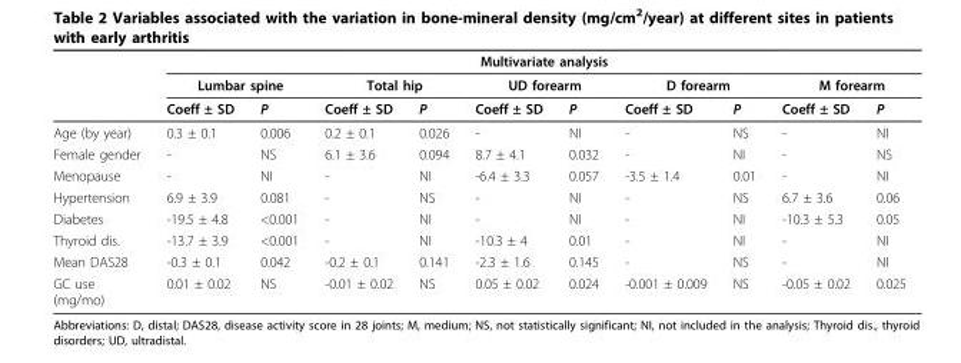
<table><thead><tr><td rowspan="3"></td><td colspan="10">Multivariate analysis</td></tr><tr><td colspan="2">Lumbar spine</td><td colspan="2">Total hip</td><td colspan="2">UD forearm</td><td colspan="2">D forearm</td><td colspan="2">M forearm</td></tr><tr><td>Coeff ± SD</td><td>P</td><td>Coeff ± SD</td><td>P</td><td>Coeff ± SD</td><td>P</td><td>Coeff ± SD</td><td>P</td><td>Coeff ± SD</td><td>P</td></tr></thead><tbody><tr><td>Age (by year)</td><td>0.3 ± 0.1</td><td>0.006</td><td>0.2 ± 0.1</td><td>0.026</td><td>-</td><td>NI</td><td>-</td><td>NS</td><td>-</td><td>NI</td></tr><tr><td>Female gender</td><td>-</td><td>NS</td><td>6.1 ± 3.6</td><td>0.094</td><td>8.7 ± 4.1</td><td>0.032</td><td>-</td><td>NI</td><td>-</td><td>NS</td></tr><tr><td>Menopause</td><td>-</td><td>NI</td><td>-</td><td>NI</td><td>-6.4 ± 3.3</td><td>0.057</td><td>-3.5 ± 1.4</td><td>0.01</td><td>-</td><td>NI</td></tr><tr><td>Hypertension</td><td>6.9 ± 3.9</td><td>0.081</td><td>-</td><td>NS</td><td>-</td><td>NI</td><td>-</td><td>NS</td><td>6.7 ± 3.6</td><td>0.06</td></tr><tr><td>Diabetes</td><td>-19.5 ± 4.8</td><td>&lt;0.001</td><td>-</td><td>NI</td><td>-</td><td>NI</td><td>-</td><td>NI</td><td>-10.3 ± 5.3</td><td>0.05</td></tr><tr><td>Thyroid dis.</td><td>-13.7 ± 3.9</td><td>&lt;0.001</td><td>-</td><td>NI</td><td>-10.3 ± 4</td><td>0.01</td><td>-</td><td>NI</td><td>-</td><td>NI</td></tr><tr><td>Mean DAS28</td><td>-0.3 ± 0.1</td><td>0.042</td><td>-0.2 ± 0.1</td><td>0.141</td><td>-2.3 ± 1.6</td><td>0.145</td><td>-</td><td>NS</td><td>-</td><td>NI</td></tr><tr><td>GC use (mg/mo)</td><td>0.01 ± 0.02</td><td>NS</td><td>-0.01 ± 0.02</td><td>NS</td><td>0.05 ± 0.02</td><td>0.024</td><td>-0.001 ± 0.009</td><td>NS</td><td>-0.05 ± 0.02</td><td>0.025</td></tr></tbody></table>